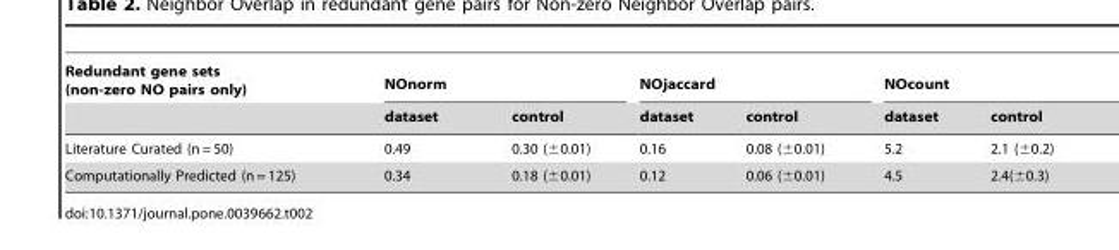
<table><thead><tr><td rowspan="2">Redundant gene sets (non-zero NO pairs only)</td><td colspan="2">NOnorm</td><td colspan="2">NOjaccard</td><td colspan="2">NOcount</td></tr><tr><td>dataset</td><td>control</td><td>dataset</td><td>control</td><td>dataset</td><td>control</td></tr></thead><tbody><tr><td>Literature Curated (n = 50)</td><td>0.49</td><td>0.30 (±0.01)</td><td>0.16</td><td>0.08 (±0.01)</td><td>5.2</td><td>2.1 (±0.2)</td></tr><tr><td>Computationally Predicted (n = 125)</td><td>0.34</td><td>0.18 (±0.01)</td><td>0.12</td><td>0.06 (±0.01)</td><td>4.5</td><td>2.4(±0.3)</td></tr></tbody></table>